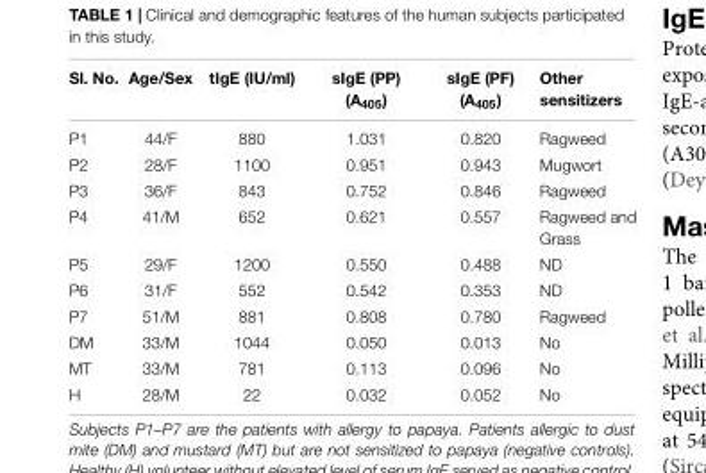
<table><thead><tr><td>Sl. No.</td><td>Age/Sex</td><td>tIgE (IU/ml)</td><td>sIgE (PP) (A<sub>405</sub>)</td><td>sIgE (PF) (A<sub>405</sub>)</td><td>Other sensitizers</td></tr></thead><tbody><tr><td>P1</td><td>44/F</td><td>880</td><td>1.031</td><td>0.820</td><td>Ragweed</td></tr><tr><td>P2</td><td>28/F</td><td>1100</td><td>0.951</td><td>0.943</td><td>Mugwort</td></tr><tr><td>P3</td><td>36/F</td><td>843</td><td>0.752</td><td>0.846</td><td>Ragweed</td></tr><tr><td>P4</td><td>41/M</td><td>652</td><td>0.621</td><td>0.557</td><td>Ragweed and Grass</td></tr><tr><td>P5</td><td>29/F</td><td>1200</td><td>0.550</td><td>0.488</td><td>ND</td></tr><tr><td>P6</td><td>31/F</td><td>552</td><td>0.542</td><td>0.353</td><td>ND</td></tr><tr><td>P7</td><td>51/M</td><td>881</td><td>0.808</td><td>0.780</td><td>Ragweed</td></tr><tr><td>DM</td><td>33/M</td><td>1044</td><td>0.050</td><td>0.013</td><td>No</td></tr><tr><td>MT</td><td>33/M</td><td>781</td><td>0.113</td><td>0.096</td><td>No</td></tr><tr><td>H</td><td>28/M</td><td>22</td><td>0.032</td><td>0.052</td><td>No</td></tr></tbody></table>